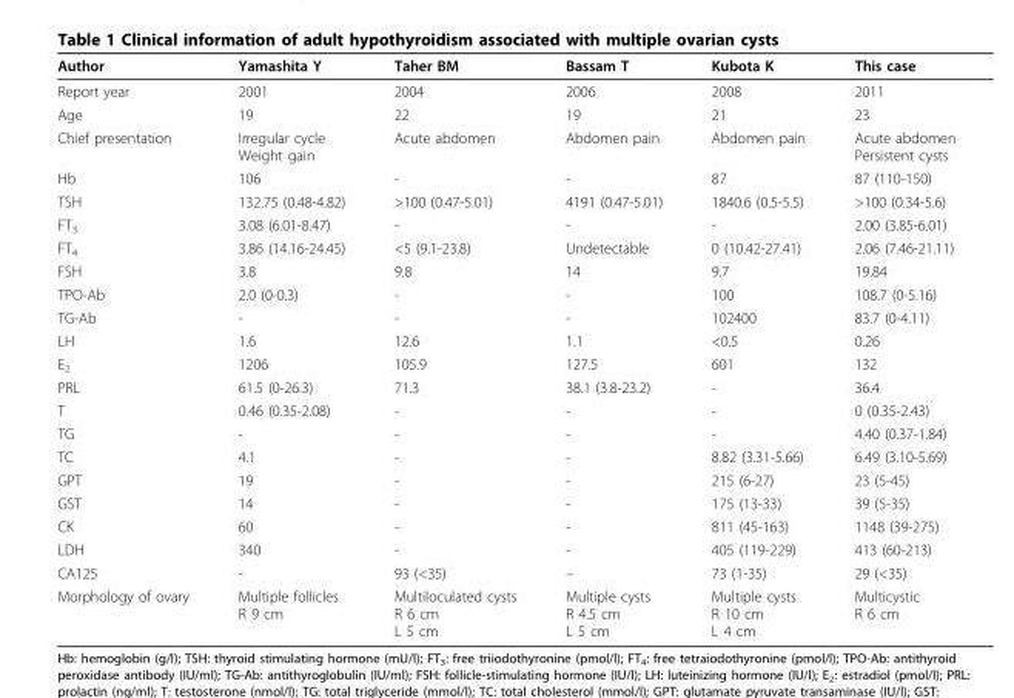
<table><thead><tr><td>Author</td><td>Yamashita Y</td><td>Taher BM</td><td>Bassam T</td><td>Kubota K</td><td>This case</td></tr></thead><tbody><tr><td>Report year</td><td>2001</td><td>2004</td><td>2006</td><td>2008</td><td>2011</td></tr><tr><td>Age</td><td>19</td><td>22</td><td>19</td><td>21</td><td>23</td></tr><tr><td>Chief presentation</td><td>Irregular cycle Weight gain</td><td>Acute abdomen</td><td>Abdomen pain</td><td>Abdomen pain</td><td>Acute abdomen Persistent cysts</td></tr><tr><td>Hb</td><td>106</td><td>-</td><td>-</td><td>87</td><td>87 (110-150)</td></tr><tr><td>TSH</td><td>132.75 (0.48-4.82)</td><td>&gt;100 (0.47-5.01)</td><td>4191 (0.47-5.01)</td><td>1840.6 (0.5-5.5)</td><td>&gt;100 (0.34-5.6)</td></tr><tr><td>FT<sub>3</sub></td><td>3.08 (6.01-8.47)</td><td>-</td><td>-</td><td>-</td><td>2.00 (3.85-6.01)</td></tr><tr><td>FT<sub>4</sub></td><td>3.86 (14.16-24.45)</td><td>&lt;5 (9.1-23.8)</td><td>Undetectable</td><td>0 (10.42-27.41)</td><td>2.06 (7.46-21.11)</td></tr><tr><td>FSH</td><td>3.8</td><td>9.8</td><td>14</td><td>9.7</td><td>19.84</td></tr><tr><td>TPO-Ab</td><td>2.0 (0-0.3)</td><td>-</td><td>-</td><td>100</td><td>108.7 (0-5.16)</td></tr><tr><td>TG-Ab</td><td>-</td><td>-</td><td>-</td><td>102400</td><td>83.7 (0-4.11)</td></tr><tr><td>LH</td><td>1.6</td><td>12.6</td><td>1.1</td><td>&lt;0.5</td><td>0.26</td></tr><tr><td>E<sub>2</sub></td><td>1206</td><td>105.9</td><td>127.5</td><td>601</td><td>132</td></tr><tr><td>PRL</td><td>61.5 (0-26.3)</td><td>71.3</td><td>38.1 (3.8-23.2)</td><td>-</td><td>36.4</td></tr><tr><td>T</td><td>0.46 (0.35-2.08)</td><td>-</td><td>-</td><td>-</td><td>0 (0.35-2.43)</td></tr><tr><td>TG</td><td>-</td><td>-</td><td>-</td><td>-</td><td>4.40 (0.37-1.84)</td></tr><tr><td>TC</td><td>4.1</td><td>-</td><td>-</td><td>8.82 (3.31-5.66)</td><td>6.49 (3.10-5.69)</td></tr><tr><td>GPT</td><td>19</td><td>-</td><td>-</td><td>215 (6-27)</td><td>23 (5-45)</td></tr><tr><td>GST</td><td>14</td><td>-</td><td>-</td><td>175 (13-33)</td><td>39 (5-35)</td></tr><tr><td>CK</td><td>60</td><td>-</td><td>-</td><td>811 (45-163)</td><td>1148 (39-275)</td></tr><tr><td>LDH</td><td>340</td><td>-</td><td>-</td><td>405 (119-229)</td><td>413 (60-213)</td></tr><tr><td>CA125</td><td>-</td><td>93 (&lt;35)</td><td>–</td><td>73 (1-35)</td><td>29 (&lt;35)</td></tr><tr><td>Morphology of ovary</td><td>Multiple follicles R 9 cm</td><td>Multiloculated cysts R 6 cm L 5 cm</td><td>Multiple cysts R 4.5 cm L 5 cm</td><td>Multiple cysts R 10 cm L 4 cm</td><td>Multicystic R 6 cm</td></tr></tbody></table>